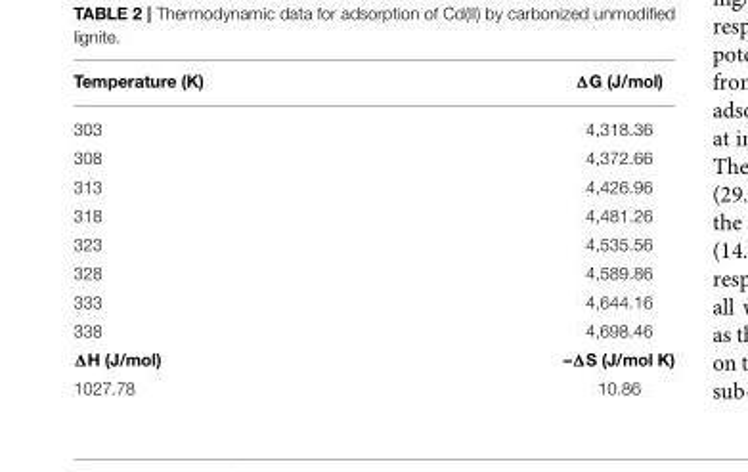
<table><thead><tr><td>Temperature (K)</td><td>ΔG (J/mol)</td></tr></thead><tbody><tr><td>303</td><td>4,318.36</td></tr><tr><td>308</td><td>4,372.66</td></tr><tr><td>313</td><td>4,426.96</td></tr><tr><td>318</td><td>4,481.26</td></tr><tr><td>323</td><td>4,535.56</td></tr><tr><td>328</td><td>4,589.86</td></tr><tr><td>333</td><td>4,644.16</td></tr><tr><td>338</td><td>4,698.46</td></tr><tr><td>ΔH (J/mol)</td><td>–ΔS (J/mol K)</td></tr><tr><td>1027.78</td><td>10.86</td></tr></tbody></table>